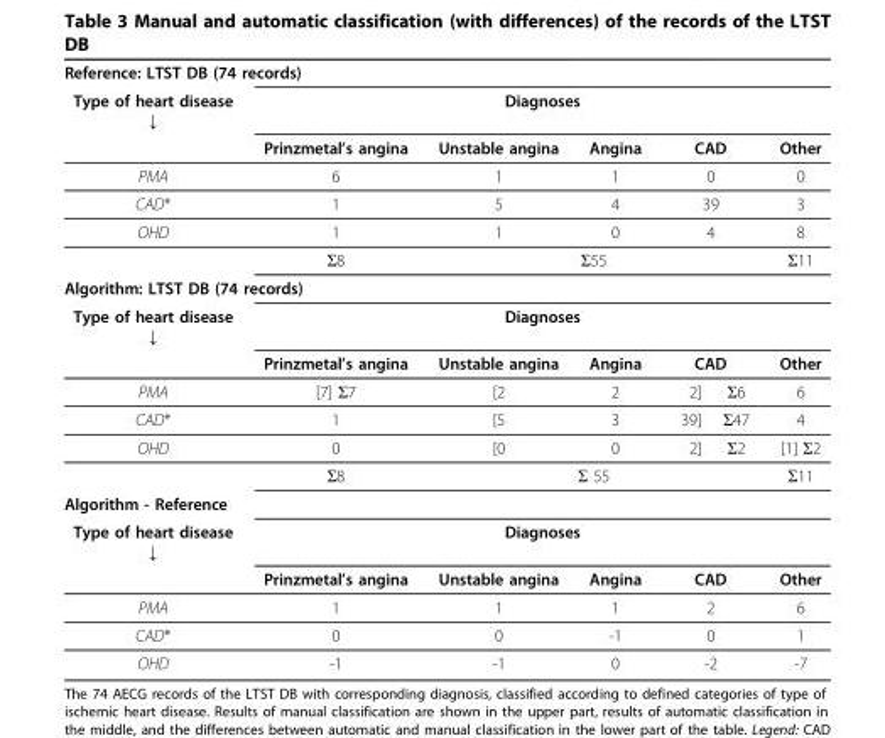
<table><thead><tr><td colspan="7">Reference: LTST DB (74 records)</td></tr><tr><td rowspan="2">Type of heart disease ↓</td><td colspan="6">Diagnoses</td></tr><tr><td>Prinzmetal’s angina</td><td>Unstable angina</td><td>Angina</td><td colspan="2">CAD</td><td>Other</td></tr></thead><tbody><tr><td>PMA</td><td>6</td><td>1</td><td>1</td><td colspan="2">0</td><td>0</td></tr><tr><td>CAD*</td><td>1</td><td>5</td><td>4</td><td colspan="2">39</td><td>3</td></tr><tr><td rowspan="2">OHD</td><td>1</td><td>1</td><td>0</td><td colspan="2">4</td><td>8</td></tr><tr><td>Σ8</td><td colspan="4">Σ55</td><td>Σ11</td></tr><tr><td colspan="7">Algorithm: LTST DB (74 records)</td></tr><tr><td rowspan="2">Type of heart disease ↓</td><td colspan="6">Diagnoses</td></tr><tr><td>Prinzmetal’s angina</td><td>Unstable angina</td><td>Angina</td><td colspan="2">CAD</td><td>Other</td></tr><tr><td>PMA</td><td>[7] Σ7</td><td>[2</td><td>2</td><td>2]</td><td>Σ6</td><td>6</td></tr><tr><td>CAD*</td><td>1</td><td>[5</td><td>3</td><td>39]</td><td>Σ47</td><td>4</td></tr><tr><td rowspan="2">OHD</td><td>0</td><td>[0</td><td>0</td><td>2]</td><td>Σ2</td><td>[1] Σ2</td></tr><tr><td>Σ8</td><td colspan="4">Σ 55</td><td>Σ11</td></tr><tr><td colspan="7">Algorithm - Reference</td></tr><tr><td rowspan="2">Type of heart disease ↓</td><td colspan="6">Diagnoses</td></tr><tr><td>Prinzmetal’s angina</td><td>Unstable angina</td><td>Angina</td><td colspan="2">CAD</td><td>Other</td></tr><tr><td>PMA</td><td>1</td><td>1</td><td>1</td><td colspan="2">2</td><td>6</td></tr><tr><td>CAD*</td><td>0</td><td>0</td><td>-1</td><td colspan="2">0</td><td>1</td></tr><tr><td>OHD</td><td>-1</td><td>-1</td><td>0</td><td colspan="2">-2</td><td>-7</td></tr></tbody></table>